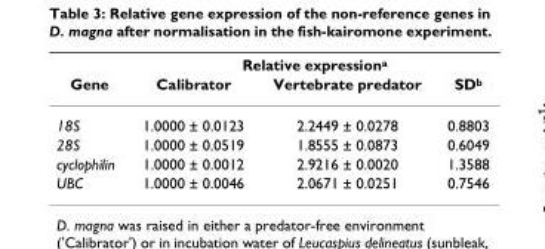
<table><thead><tr><td rowspan="2">Gene</td><td colspan="3">Relative expression<sup>a</sup></td></tr><tr><td>Calibrator</td><td>Vertebrate predator</td><td>SD<sup>b</sup></td></tr></thead><tbody><tr><td>18S</td><td>1.0000 ± 0.0123</td><td>2.2449 ± 0.0278</td><td>0.8803</td></tr><tr><td>28S</td><td>1.0000 ± 0.0519</td><td>1.8555 ± 0.0873</td><td>0.6049</td></tr><tr><td>cyclophilin</td><td>1.0000 ± 0.0012</td><td>2.9216 ± 0.0020</td><td>1.3588</td></tr><tr><td>UBC</td><td>1.0000 ± 0.0046</td><td>2.0671 ± 0.0251</td><td>0.7546</td></tr></tbody></table>